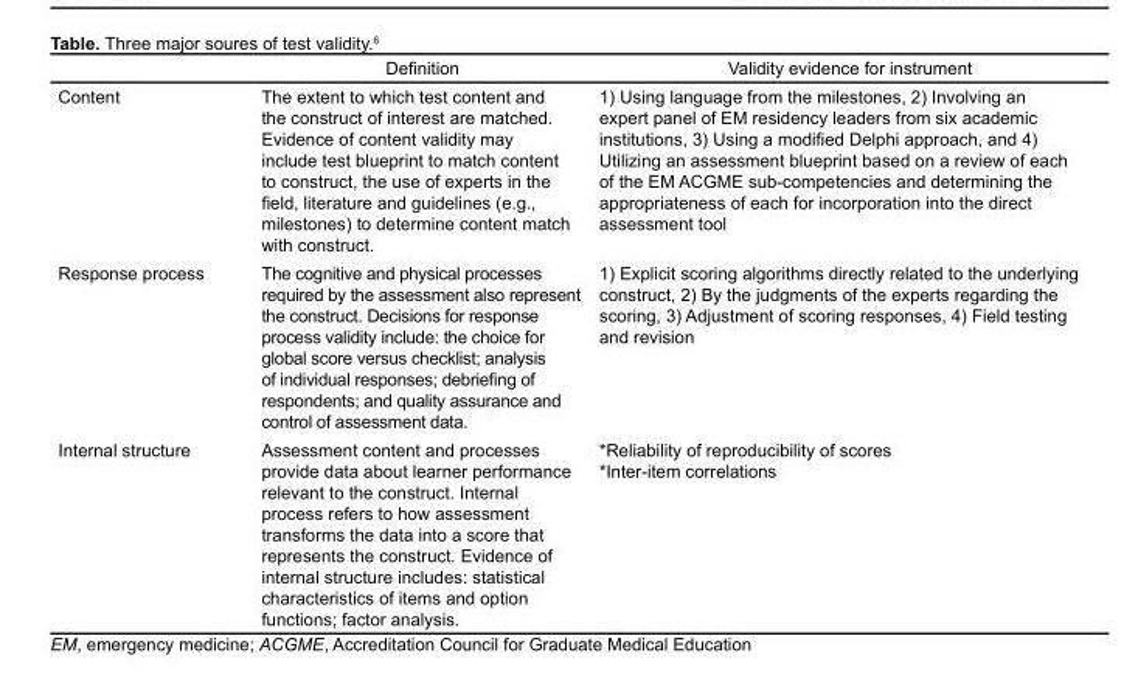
<table><thead><tr><td></td><td>Definition</td><td>Validity evidence for instrument</td></tr></thead><tbody><tr><td>Content</td><td>The extent to which test content and the construct of interest are matched. Evidence of content validity may include test blueprint to match content to construct, the use of experts in the field, literature and guidelines (e.g., milestones) to determine content match with construct.</td><td>1) Using language from the milestones, 2) Involving an expert panel of EM residency leaders from six academic institutions, 3) Using a modified Delphi approach, and 4) Utilizing an assessment blueprint based on a review of each of the EM ACGME sub-competencies and determining the appropriateness of each for incorporation into the direct assessment tool</td></tr><tr><td>Response process</td><td>The cognitive and physical processes required by the assessment also represent the construct. Decisions for response process validity include: the choice for global score versus checklist; analysis of individual responses; debriefing of respondents; and quality assurance and control of assessment data.</td><td>1) Explicit scoring algorithms directly related to the underlying construct, 2) By the judgments of the experts regarding the scoring, 3) Adjustment of scoring responses, 4) Field testing and revision</td></tr><tr><td>Internal structure</td><td>Assessment content and processes provide data about learner performance relevant to the construct. Internal process refers to how assessment transforms the data into a score that represents the construct. Evidence of internal structure includes: statistical characteristics of items and option functions; factor analysis.</td><td>*Reliability of reproducibility of scores *Inter-item correlations</td></tr></tbody></table>